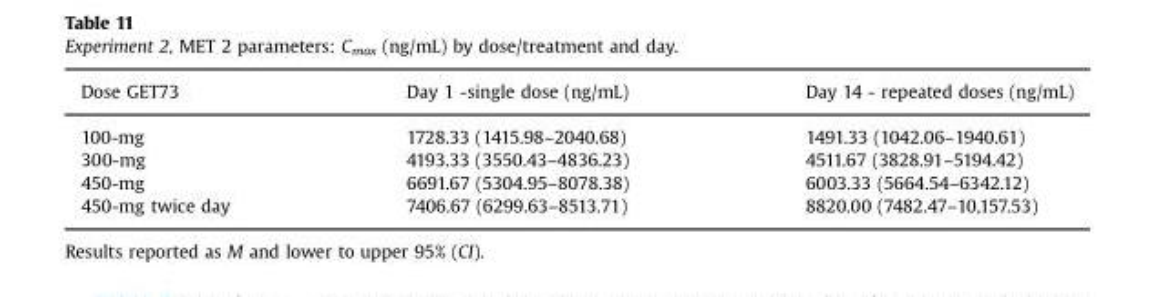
<table><thead><tr><td>Dose GET73</td><td>Day 1 -single dose (ng/mL)</td><td>Day 14 - repeated doses (ng/mL)</td></tr></thead><tbody><tr><td>100-mg</td><td>1728.33 (1415.98–2040.68)</td><td>1491.33 (1042.06–1940.61)</td></tr><tr><td>300-mg</td><td>4193.33 (3550.43–4836.23)</td><td>4511.67 (3828.91–5194.42)</td></tr><tr><td>450-mg</td><td>6691.67 (5304.95–8078.38)</td><td>6003.33 (5664.54–6342.12)</td></tr><tr><td>450-mg twice day</td><td>7406.67 (6299.63–8513.71)</td><td>8820.00 (7482.47–10,157.53)</td></tr></tbody></table>